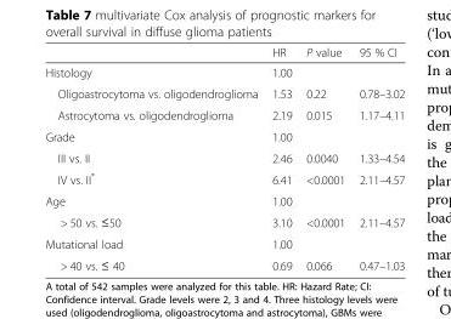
<table><thead><tr><td></td><td>HR</td><td>P value</td><td>95 % CI</td></tr></thead><tbody><tr><td>Histology</td><td>1.00</td><td></td><td></td></tr><tr><td>Oligoastrocytoma vs. oligodendroglioma</td><td>1.53</td><td>0.22</td><td>0.78–3.02</td></tr><tr><td>Astrocytoma vs. oligodendroglioma</td><td>2.19</td><td>0.015</td><td>1.17–4.11</td></tr><tr><td>Grade</td><td>1.00</td><td></td><td></td></tr><tr><td>III vs. II</td><td>2.46</td><td>0.0040</td><td>1.33–4.54</td></tr><tr><td>IV vs. II*</td><td>6.41</td><td>&lt;0.0001</td><td>2.11–4.57</td></tr><tr><td>Age</td><td>1.00</td><td></td><td></td></tr><tr><td>&gt; 50 vs. ≤50</td><td>3.10</td><td>&lt;0.0001</td><td>2.11–4.57</td></tr><tr><td>Mutational load</td><td>1.00</td><td></td><td></td></tr><tr><td>&gt; 40 vs. ≤ 40</td><td>0.69</td><td>0.066</td><td>0.47–1.03</td></tr></tbody></table>